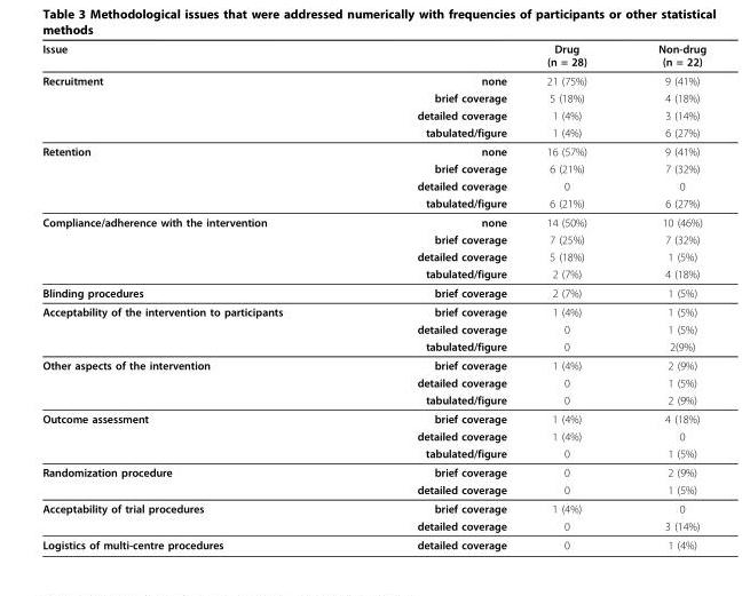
<table><thead><tr><td>Issue</td><td></td><td>Drug (n = 28)</td><td>Non-drug (n = 22)</td></tr></thead><tbody><tr><td rowspan="4">Recruitment</td><td>none</td><td>21 (75%)</td><td>9 (41%)</td></tr><tr><td>brief coverage</td><td>5 (18%)</td><td>4 (18%)</td></tr><tr><td>detailed coverage</td><td>1 (4%)</td><td>3 (14%)</td></tr><tr><td>tabulated/figure</td><td>1 (4%)</td><td>6 (27%)</td></tr><tr><td rowspan="4">Retention</td><td>none</td><td>16 (57%)</td><td>9 (41%)</td></tr><tr><td>brief coverage</td><td>6 (21%)</td><td>7 (32%)</td></tr><tr><td>detailed coverage</td><td>0</td><td>0</td></tr><tr><td>tabulated/figure</td><td>6 (21%)</td><td>6 (27%)</td></tr><tr><td rowspan="4">Compliance/adherence with the intervention</td><td>none</td><td>14 (50%)</td><td>10 (46%)</td></tr><tr><td>brief coverage</td><td>7 (25%)</td><td>7 (32%)</td></tr><tr><td>detailed coverage</td><td>5 (18%)</td><td>1 (5%)</td></tr><tr><td>tabulated/figure</td><td>2 (7%)</td><td>4 (18%)</td></tr><tr><td>Blinding procedures</td><td>brief coverage</td><td>2 (7%)</td><td>1 (5%)</td></tr><tr><td rowspan="3">Acceptability of the intervention to participants</td><td>brief coverage</td><td>1 (4%)</td><td>1 (5%)</td></tr><tr><td>detailed coverage</td><td>0</td><td>1 (5%)</td></tr><tr><td>tabulated/figure</td><td>0</td><td>2(9%)</td></tr><tr><td rowspan="3">Other aspects of the intervention</td><td>brief coverage</td><td>1 (4%)</td><td>2 (9%)</td></tr><tr><td>detailed coverage</td><td>0</td><td>1 (5%)</td></tr><tr><td>tabulated/figure</td><td>0</td><td>2 (9%)</td></tr><tr><td rowspan="3">Outcome assessment</td><td>brief coverage</td><td>1 (4%)</td><td>4 (18%)</td></tr><tr><td>detailed coverage</td><td>1 (4%)</td><td>0</td></tr><tr><td>tabulated/figure</td><td>0</td><td>1 (5%)</td></tr><tr><td rowspan="2">Randomization procedure</td><td>brief coverage</td><td>0</td><td>2 (9%)</td></tr><tr><td>detailed coverage</td><td>0</td><td>1 (5%)</td></tr><tr><td rowspan="2">Acceptability of trial procedures</td><td>brief coverage</td><td>1 (4%)</td><td>0</td></tr><tr><td>detailed coverage</td><td>0</td><td>3 (14%)</td></tr><tr><td>Logistics of multi-centre procedures</td><td>detailed coverage</td><td>0</td><td>1 (4%)</td></tr></tbody></table>